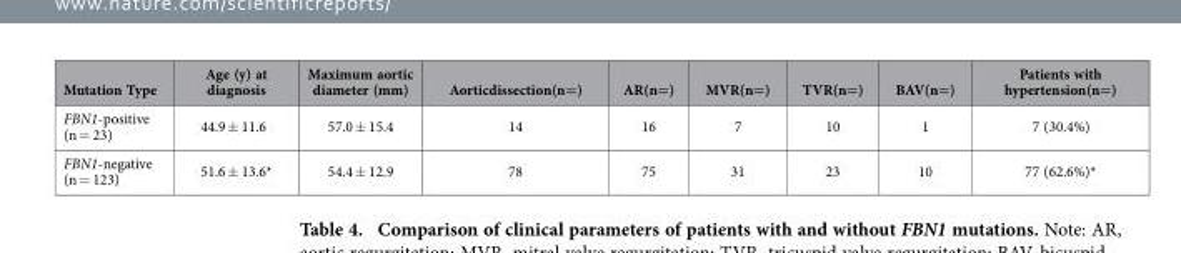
<table><thead><tr><td>Mutation Type</td><td>Age (y) at diagnosis</td><td>Maximum aortic diameter (mm)</td><td>Aorticdissection(n=)</td><td>AR(n=)</td><td>MVR(n=)</td><td>TVR(n=)</td><td>BAV(n=)</td><td>Patients with hypertension(n=)</td></tr></thead><tbody><tr><td>FBN1-positive (n = 23)</td><td>44.9 ± 11.6</td><td>57.0 ± 15.4</td><td>14</td><td>16</td><td>7</td><td>10</td><td>1</td><td>7 (30.4%)</td></tr><tr><td>FBN1-negative (n = 123)</td><td>51.6 ± 13.6*</td><td>54.4 ± 12.9</td><td>78</td><td>75</td><td>31</td><td>23</td><td>10</td><td>77 (62.6%)*</td></tr></tbody></table>